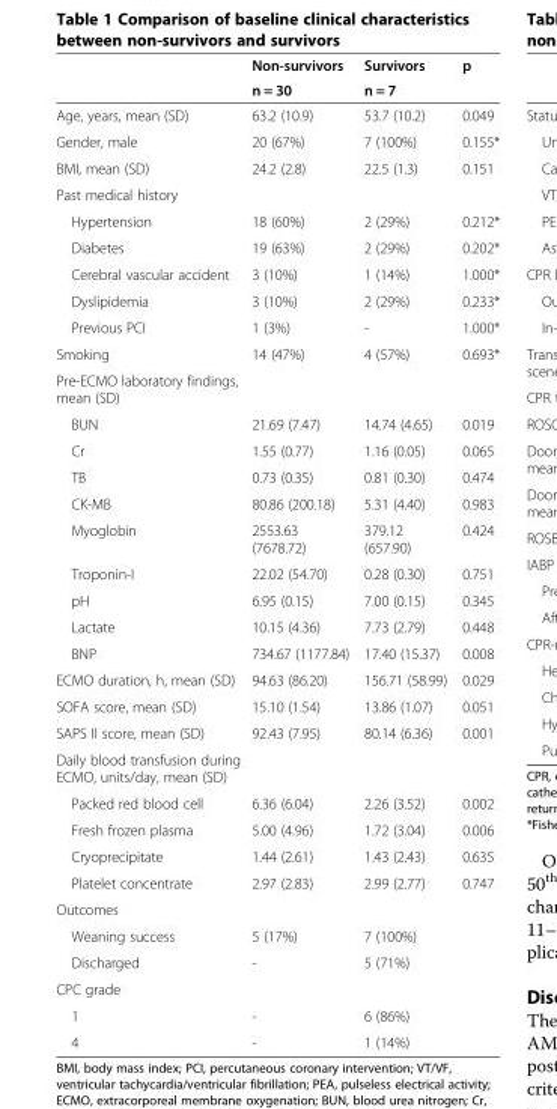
<table><thead><tr><td rowspan="2"></td><td rowspan="2">Non-survivors n = 30</td><td rowspan="2">Survivors n = 7</td><td rowspan="2">p</td></tr><tr></tr></thead><tbody><tr><td>Age, years, mean (SD)</td><td>63.2 (10.9)</td><td>53.7 (10.2)</td><td>0.049</td></tr><tr><td>Gender, male</td><td>20 (67%)</td><td>7 (100%)</td><td>0.155*</td></tr><tr><td>BMI, mean (SD)</td><td>24.2 (2.8)</td><td>22.5 (1.3)</td><td>0.151</td></tr><tr><td colspan="4">Past medical history</td></tr><tr><td>Hypertension</td><td>18 (60%)</td><td>2 (29%)</td><td>0.212*</td></tr><tr><td>Diabetes</td><td>19 (63%)</td><td>2 (29%)</td><td>0.202*</td></tr><tr><td>Cerebral vascular accident</td><td>3 (10%)</td><td>1 (14%)</td><td>1.000*</td></tr><tr><td>Dyslipidemia</td><td>3 (10%)</td><td>2 (29%)</td><td>0.233*</td></tr><tr><td>Previous PCI</td><td>1 (3%)</td><td>-</td><td>1.000*</td></tr><tr><td>Smoking</td><td>14 (47%)</td><td>4 (57%)</td><td>0.693*</td></tr><tr><td colspan="4">Pre-ECMO laboratory findings, mean (SD)</td></tr><tr><td>BUN</td><td>21.69 (7.47)</td><td>14.74 (4.65)</td><td>0.019</td></tr><tr><td>Cr</td><td>1.55 (0.77)</td><td>1.16 (0.05)</td><td>0.065</td></tr><tr><td>TB</td><td>0.73 (0.35)</td><td>0.81 (0.30)</td><td>0.474</td></tr><tr><td>CK-MB</td><td>80.86 (200.18)</td><td>5.31 (4.40)</td><td>0.983</td></tr><tr><td>Myoglobin</td><td>2553.63 (7678.72)</td><td>379.12 (657.90)</td><td>0.424</td></tr><tr><td>Troponin-I</td><td>22.02 (54.70)</td><td>0.28 (0.30)</td><td>0.751</td></tr><tr><td>pH</td><td>6.95 (0.15)</td><td>7.00 (0.15)</td><td>0.345</td></tr><tr><td>Lactate</td><td>10.15 (4.36)</td><td>7.73 (2.79)</td><td>0.448</td></tr><tr><td>BNP</td><td>734.67 (1177.84)</td><td>17.40 (15.37)</td><td>0.008</td></tr><tr><td>ECMO duration, h, mean (SD)</td><td>94.63 (86.20)</td><td>156.71 (58.99)</td><td>0.029</td></tr><tr><td>SOFA score, mean (SD)</td><td>15.10 (1.54)</td><td>13.86 (1.07)</td><td>0.051</td></tr><tr><td>SAPS II score, mean (SD)</td><td>92.43 (7.95)</td><td>80.14 (6.36)</td><td>0.001</td></tr><tr><td colspan="4">Daily blood transfusion during ECMO, units/day, mean (SD)</td></tr><tr><td>Packed red blood cell</td><td>6.36 (6.04)</td><td>2.26 (3.52)</td><td>0.002</td></tr><tr><td>Fresh frozen plasma</td><td>5.00 (4.96)</td><td>1.72 (3.04)</td><td>0.006</td></tr><tr><td>Cryoprecipitate</td><td>1.44 (2.61)</td><td>1.43 (2.43)</td><td>0.635</td></tr><tr><td>Platelet concentrate</td><td>2.97 (2.83)</td><td>2.99 (2.77)</td><td>0.747</td></tr><tr><td colspan="3">Outcomes</td><td rowspan="3"></td></tr><tr><td>Weaning success</td><td>5 (17%)</td><td>7 (100%)</td></tr><tr><td>Discharged</td><td>-</td><td>5 (71%)</td></tr><tr><td colspan="4">CPC grade</td></tr><tr><td>1</td><td>-</td><td>6 (86%)</td><td></td></tr><tr><td>4</td><td>-</td><td>1 (14%)</td><td></td></tr></tbody></table>